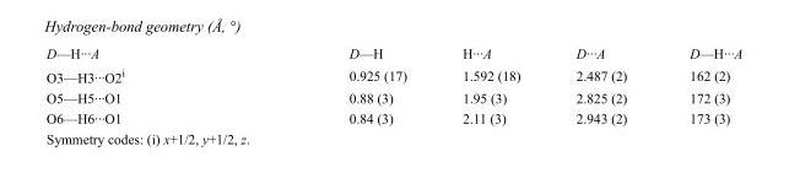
<table><tbody><tr><td>D—H···A</td><td>D—H</td><td>H···A</td><td>D···A</td><td>D—H···A</td></tr><tr><td>O3—H3···O2<sup>i</sup></td><td>0.925 (17)</td><td>1.592 (18)</td><td>2.487 (2)</td><td>162 (2)</td></tr><tr><td>O5—H5···O1</td><td>0.88 (3)</td><td>1.95 (3)</td><td>2.825 (2)</td><td>172 (3)</td></tr><tr><td>O6—H6···O1</td><td>0.84 (3)</td><td>2.11 (3)</td><td>2.943 (2)</td><td>173 (3)</td></tr></tbody></table>